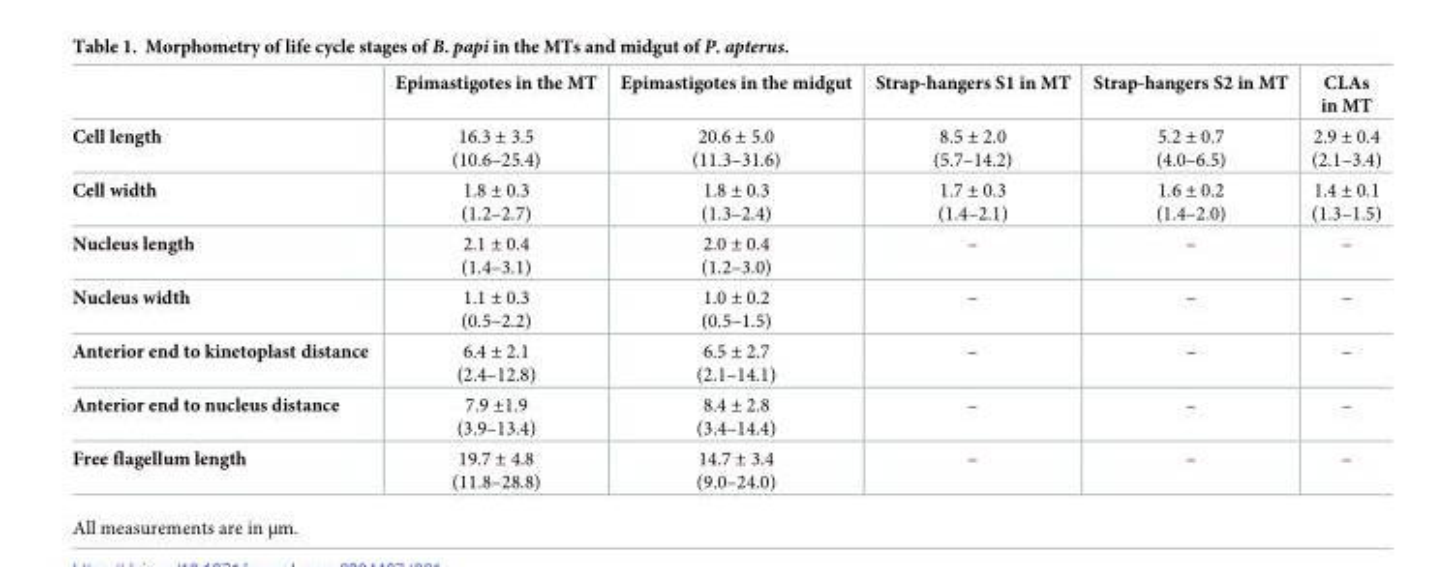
<table><thead><tr><td></td><td>Epimastigotes in the MT</td><td>Epimastigotes in the midgut</td><td>Strap-hangers S1 in MT</td><td>Strap-hangers S2 in MT</td><td>CLAs in MT</td></tr></thead><tbody><tr><td>Cell length</td><td>16.3 ± 3.5 (10.6–25.4)</td><td>20.6 ± 5.0 (11.3–31.6)</td><td>8.5 ± 2.0 (5.7–14.2)</td><td>5.2 ± 0.7 (4.0–6.5)</td><td>2.9 ± 0.4 (2.1–3.4)</td></tr><tr><td>Cell width</td><td>1.8 ± 0.3 (1.2–2.7)</td><td>1.8 ± 0.3 (1.3–2.4)</td><td>1.7 ± 0.3 (1.4–2.1)</td><td>1.6 ± 0.2 (1.4–2.0)</td><td>1.4 ± 0.1 (1.3–1.5)</td></tr><tr><td>Nucleus length</td><td>2.1 ± 0.4 (1.4–3.1)</td><td>2.0 ± 0.4 (1.2–3.0)</td><td>–</td><td>–</td><td>–</td></tr><tr><td>Nucleus width</td><td>1.1 ± 0.3 (0.5–2.2)</td><td>1.0 ± 0.2 (0.5–1.5)</td><td>–</td><td>–</td><td>–</td></tr><tr><td>Anterior end to kinetoplast distance</td><td>6.4 ± 2.1 (2.4–12.8)</td><td>6.5 ± 2.7 (2.1–14.1)</td><td>–</td><td>–</td><td>–</td></tr><tr><td>Anterior end to nucleus distance</td><td>7.9 ±1.9 (3.9–13.4)</td><td>8.4 ± 2.8 (3.4–14.4)</td><td>–</td><td>–</td><td>–</td></tr><tr><td>Free flagellum length</td><td>19.7 ± 4.8 (11.8–28.8)</td><td>14.7 ± 3.4 (9.0–24.0)</td><td>–</td><td>–</td><td>–</td></tr></tbody></table>